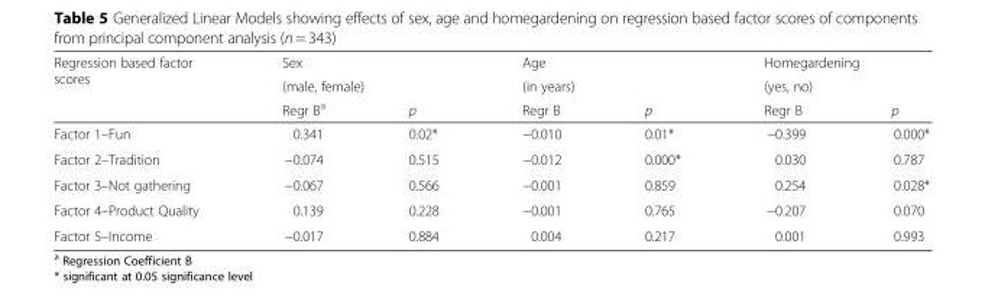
<table><thead><tr><td rowspan="3">Regression based factor scores</td><td rowspan="2" colspan="2">Sex (male, female)</td><td rowspan="2" colspan="2">Age (in years)</td><td rowspan="2" colspan="2">Homegardening (yes, no)</td></tr><tr></tr><tr><td>Regr B<sup>a</sup></td><td>p</td><td>Regr B</td><td>p</td><td>Regr B</td><td>p</td></tr></thead><tbody><tr><td>Factor 1–Fun</td><td>0.341</td><td>0.02*</td><td>−0.010</td><td>0.01*</td><td>−0.399</td><td>0.000*</td></tr><tr><td>Factor 2–Tradition</td><td>−0.074</td><td>0.515</td><td>−0.012</td><td>0.000*</td><td>0.030</td><td>0.787</td></tr><tr><td>Factor 3–Not gathering</td><td>−0.067</td><td>0.566</td><td>−0.001</td><td>0.859</td><td>0.254</td><td>0.028*</td></tr><tr><td>Factor 4–Product Quality</td><td>0.139</td><td>0.228</td><td>−0.001</td><td>0.765</td><td>−0.207</td><td>0.070</td></tr><tr><td>Factor 5–Income</td><td>−0.017</td><td>0.884</td><td>0.004</td><td>0.217</td><td>0.001</td><td>0.993</td></tr></tbody></table>